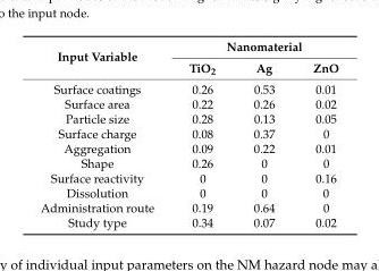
<table><thead><tr><td rowspan="2">Input Variable</td><td colspan="3">Nanomaterial</td></tr><tr><td>TiO<sub>2</sub></td><td>Ag</td><td>ZnO</td></tr></thead><tbody><tr><td>Surface coatings</td><td>0.26</td><td>0.53</td><td>0.01</td></tr><tr><td>Surface area</td><td>0.22</td><td>0.26</td><td>0.02</td></tr><tr><td>Particle size</td><td>0.28</td><td>0.13</td><td>0.05</td></tr><tr><td>Surface charge</td><td>0.08</td><td>0.37</td><td>0</td></tr><tr><td>Aggregation</td><td>0.09</td><td>0.22</td><td>0.01</td></tr><tr><td>Shape</td><td>0.26</td><td>0</td><td>0</td></tr><tr><td>Surface reactivity</td><td>0</td><td>0</td><td>0.16</td></tr><tr><td>Dissolution</td><td>0</td><td>0</td><td>0</td></tr><tr><td>Administration route</td><td>0.19</td><td>0.64</td><td>0</td></tr><tr><td>Study type</td><td>0.34</td><td>0.07</td><td>0.02</td></tr></tbody></table>